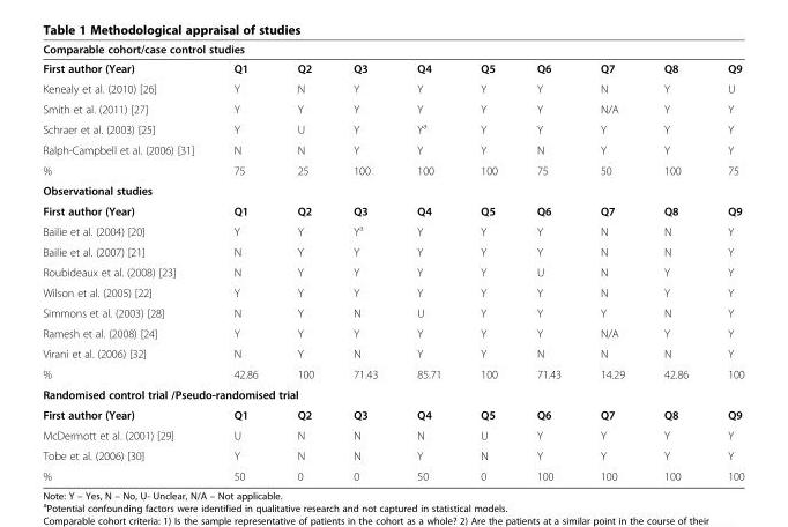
<table><thead><tr><td colspan="10">Comparable cohort/case control studies</td></tr><tr><td>First author (Year)</td><td>Q1</td><td>Q2</td><td>Q3</td><td>Q4</td><td>Q5</td><td>Q6</td><td>Q7</td><td>Q8</td><td>Q9</td></tr></thead><tbody><tr><td>Kenealy et al. (2010) [26]</td><td>Y</td><td>N</td><td>Y</td><td>Y</td><td>Y</td><td>Y</td><td>N</td><td>Y</td><td>U</td></tr><tr><td>Smith et al. (2011) [27]</td><td>Y</td><td>Y</td><td>Y</td><td>Y</td><td>Y</td><td>Y</td><td>N/A</td><td>Y</td><td>Y</td></tr><tr><td>Schraer et al. (2003) [25]</td><td>Y</td><td>U</td><td>Y</td><td>Y<sup>a</sup></td><td>Y</td><td>Y</td><td>Y</td><td>Y</td><td>Y</td></tr><tr><td>Ralph-Campbell et al. (2006) [31]</td><td>N</td><td>N</td><td>Y</td><td>Y</td><td>Y</td><td>N</td><td>Y</td><td>Y</td><td>Y</td></tr><tr><td>%</td><td>75</td><td>25</td><td>100</td><td>100</td><td>100</td><td>75</td><td>50</td><td>100</td><td>75</td></tr><tr><td colspan="10">Observational studies</td></tr><tr><td>First author (Year)</td><td>Q1</td><td>Q2</td><td>Q3</td><td>Q4</td><td>Q5</td><td>Q6</td><td>Q7</td><td>Q8</td><td>Q9</td></tr><tr><td>Bailie et al. (2004) [20]</td><td>Y</td><td>Y</td><td>Y<sup>a</sup></td><td>Y</td><td>Y</td><td>Y</td><td>N</td><td>N</td><td>Y</td></tr><tr><td>Bailie et al. (2007) [21]</td><td>N</td><td>Y</td><td>Y</td><td>Y</td><td>Y</td><td>Y</td><td>N</td><td>N</td><td>Y</td></tr><tr><td>Roubideaux et al. (2008) [23]</td><td>N</td><td>Y</td><td>Y</td><td>Y</td><td>Y</td><td>U</td><td>N</td><td>Y</td><td>Y</td></tr><tr><td>Wilson et al. (2005) [22]</td><td>Y</td><td>Y</td><td>Y</td><td>Y</td><td>Y</td><td>Y</td><td>N</td><td>Y</td><td>Y</td></tr><tr><td>Simmons et al. (2003) [28]</td><td>N</td><td>Y</td><td>N</td><td>U</td><td>Y</td><td>Y</td><td>Y</td><td>N</td><td>Y</td></tr><tr><td>Ramesh et al. (2008) [24]</td><td>Y</td><td>Y</td><td>Y</td><td>Y</td><td>Y</td><td>Y</td><td>N/A</td><td>Y</td><td>Y</td></tr><tr><td>Virani et al. (2006) [32]</td><td>N</td><td>Y</td><td>N</td><td>Y</td><td>Y</td><td>N</td><td>N</td><td>N</td><td>Y</td></tr><tr><td>%</td><td>42.86</td><td>100</td><td>71.43</td><td>85.71</td><td>100</td><td>71.43</td><td>14.29</td><td>42.86</td><td>100</td></tr><tr><td colspan="10">Randomised control trial /Pseudo-randomised trial</td></tr><tr><td>First author (Year)</td><td>Q1</td><td>Q2</td><td>Q3</td><td>Q4</td><td>Q5</td><td>Q6</td><td>Q7</td><td>Q8</td><td>Q9</td></tr><tr><td>McDermott et al. (2001) [29]</td><td>U</td><td>N</td><td>N</td><td>N</td><td>U</td><td>Y</td><td>Y</td><td>Y</td><td>Y</td></tr><tr><td>Tobe et al. (2006) [30]</td><td>Y</td><td>N</td><td>N</td><td>Y</td><td>N</td><td>Y</td><td>Y</td><td>Y</td><td>Y</td></tr><tr><td>%</td><td>50</td><td>0</td><td>0</td><td>50</td><td>0</td><td>100</td><td>100</td><td>100</td><td>100</td></tr></tbody></table>